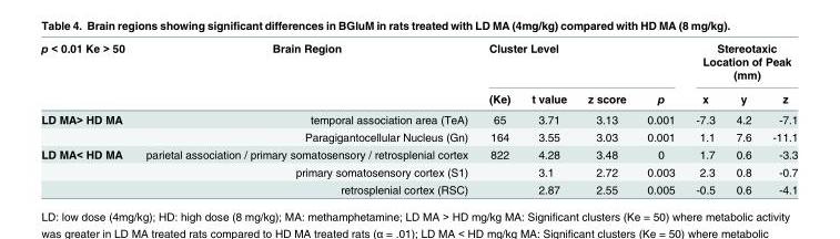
<table><thead><tr><td rowspan="2">p &lt; 0.01 Ke &gt; 50</td><td rowspan="2">Brain Region</td><td colspan="4">Cluster Level</td><td colspan="3">Stereotaxic Location of Peak (mm)</td></tr><tr><td>(Ke)</td><td>t value</td><td>z score</td><td>p</td><td>x</td><td>y</td><td>z</td></tr></thead><tbody><tr><td rowspan="2">LD MA&gt; HD MA</td><td>temporal association area (TeA)</td><td>65</td><td>3.71</td><td>3.13</td><td>0.001</td><td>-7.3</td><td>4.2</td><td>-7.1</td></tr><tr><td>Paragigantocellular Nucleus (Gn)</td><td>164</td><td>3.55</td><td>3.03</td><td>0.001</td><td>1.1</td><td>7.6</td><td>-11.1</td></tr><tr><td rowspan="3">LD MA&lt; HD MA</td><td>parietal association / primary somatosensory / retrosplenial cortex</td><td>822</td><td>4.28</td><td>3.48</td><td>0</td><td>1.7</td><td>0.6</td><td>-3.3</td></tr><tr><td>primary somatosensory cortex (S1)</td><td></td><td>3.1</td><td>2.72</td><td>0.003</td><td>2.3</td><td>0.8</td><td>-0.7</td></tr><tr><td>retrosplenial cortex (RSC)</td><td></td><td>2.87</td><td>2.55</td><td>0.005</td><td>-0.5</td><td>0.6</td><td>-4.1</td></tr></tbody></table>